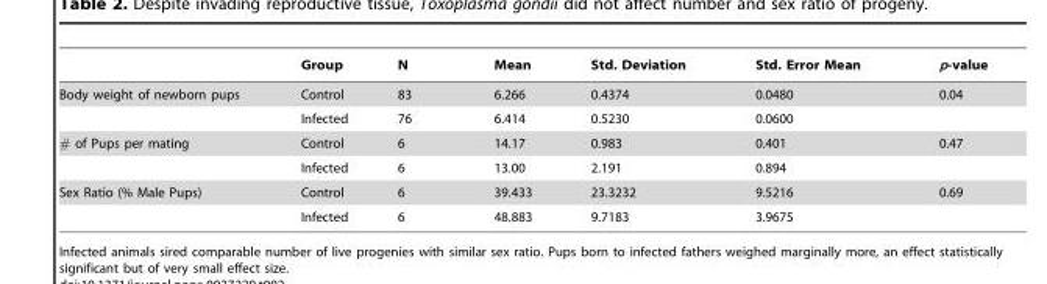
<table><thead><tr><td></td><td>Group</td><td>N</td><td>Mean</td><td>Std. Deviation</td><td>Std. Error Mean</td><td>p-value</td></tr></thead><tbody><tr><td rowspan="2">Body weight of newborn pups</td><td>Control</td><td>83</td><td>6.266</td><td>0.4374</td><td>0.0480</td><td>0.04</td></tr><tr><td>Infected</td><td>76</td><td>6.414</td><td>0.5230</td><td>0.0600</td><td></td></tr><tr><td rowspan="2"># of Pups per mating</td><td>Control</td><td>6</td><td>14.17</td><td>0.983</td><td>0.401</td><td>0.47</td></tr><tr><td>Infected</td><td>6</td><td>13.00</td><td>2.191</td><td>0.894</td><td></td></tr><tr><td rowspan="2">Sex Ratio (% Male Pups)</td><td>Control</td><td>6</td><td>39.433</td><td>23.3232</td><td>9.5216</td><td>0.69</td></tr><tr><td>Infected</td><td>6</td><td>48.883</td><td>9.7183</td><td>3.9675</td><td></td></tr></tbody></table>